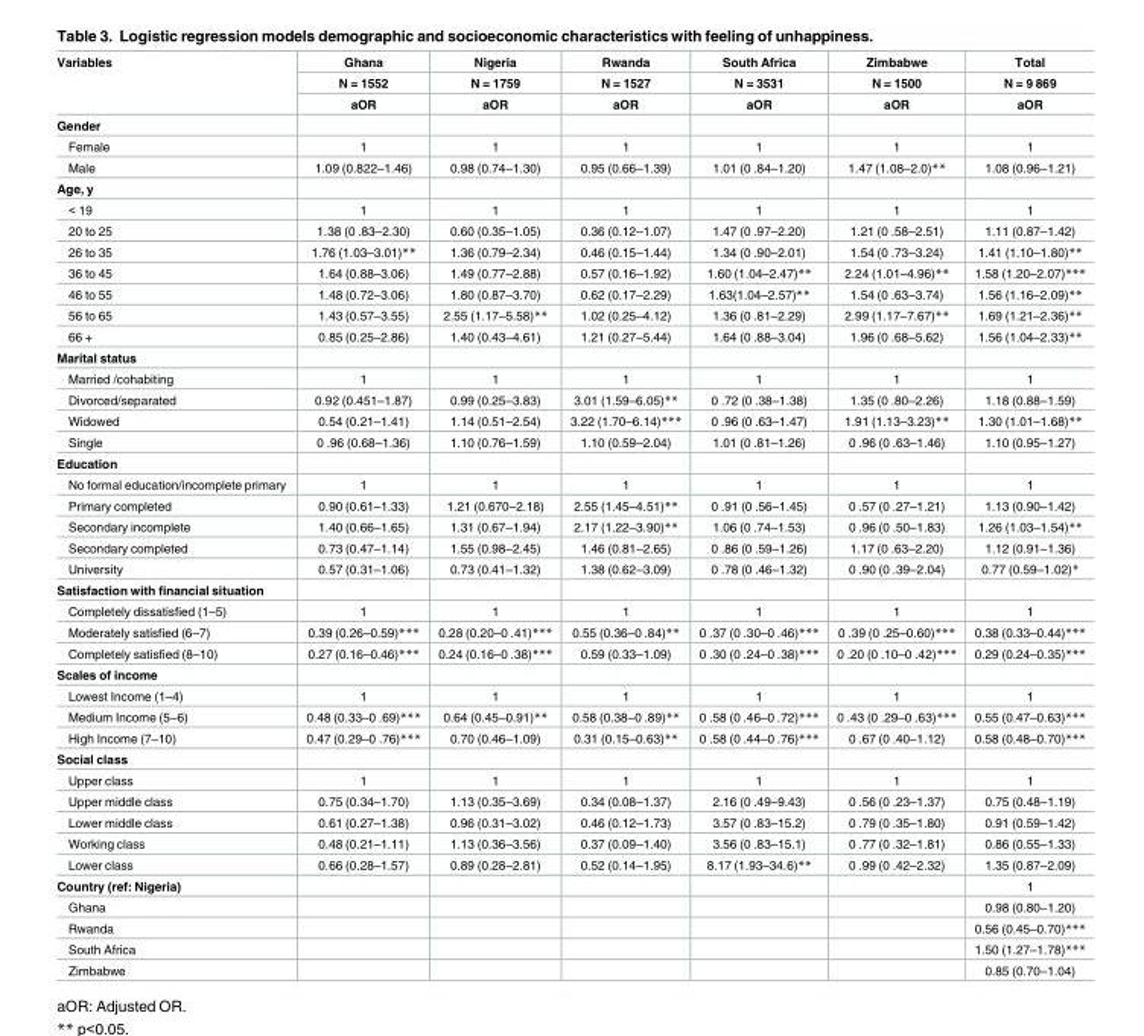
<table><thead><tr><td rowspan="3">Variables</td><td rowspan="3">Ghana N = 1552 aOR</td><td rowspan="3">Nigeria N = 1759 aOR</td><td rowspan="3">Rwanda N = 1527 aOR</td><td rowspan="3">South Africa N = 3531 aOR</td><td rowspan="3">Zimbabwe N = 1500 aOR</td><td rowspan="3">Total N = 9 869 aOR</td></tr><tr></tr><tr></tr></thead><tbody><tr><td colspan="7">Gender</td></tr><tr><td>Female</td><td>1</td><td>1</td><td>1</td><td>1</td><td>1</td><td>1</td></tr><tr><td>Male</td><td>1.09 (0.822–1.46)</td><td>0.98 (0.74–1.30)</td><td>0.95 (0.66–1.39)</td><td>1.01 (0 .84–1.20)</td><td>1.47 (1.08–2.0)**</td><td>1.08 (0.96–1.21)</td></tr><tr><td colspan="7">Age, y</td></tr><tr><td>&lt; 19</td><td>1</td><td>1</td><td>1</td><td>1</td><td>1</td><td>1</td></tr><tr><td>20 to 25</td><td>1.38 (0 .83–2.30)</td><td>0.60 (0.35–1.05)</td><td>0.36 (0.12–1.07)</td><td>1.47 (0 .97–2.20)</td><td>1.21 (0 .58–2.51)</td><td>1.11 (0.87–1.42)</td></tr><tr><td>26 to 35</td><td>1.76 (1.03–3.01)**</td><td>1.36 (0.79–2.34)</td><td>0.46 (0.15–1.44)</td><td>1.34 (0 .90–2.01)</td><td>1.54 (0 .73–3.24)</td><td>1.41 (1.10–1.80)**</td></tr><tr><td>36 to 45</td><td>1.64 (0.88–3.06)</td><td>1.49 (0.77–2.88)</td><td>0.57 (0.16–1.92)</td><td>1.60 (1.04–2.47)**</td><td>2.24 (1.01–4.96)**</td><td>1.58 (1.20–2.07)***</td></tr><tr><td>46 to 55</td><td>1.48 (0.72–3.06)</td><td>1.80 (0.87–3.70)</td><td>0.62 (0.17–2.29)</td><td>1.63(1.04–2.57)**</td><td>1.54 (0 .63–3.74)</td><td>1.56 (1.16–2.09)**</td></tr><tr><td>56 to 65</td><td>1.43 (0.57–3.55)</td><td>2.55 (1.17–5.58)**</td><td>1.02 (0.25–4.12)</td><td>1.36 (0 .81–2.29)</td><td>2.99 (1.17–7.67)**</td><td>1.69 (1.21–2.36)**</td></tr><tr><td>66 +</td><td>0.85 (0.25–2.86)</td><td>1.40 (0.43–4.61)</td><td>1.21 (0.27–5.44)</td><td>1.64 (0 .88–3.04)</td><td>1.96 (0 .68–5.62)</td><td>1.56 (1.04–2.33)**</td></tr><tr><td colspan="7">Marital status</td></tr><tr><td>Married /cohabiting</td><td>1</td><td>1</td><td>1</td><td>1</td><td>1</td><td>1</td></tr><tr><td>Divorced/separated</td><td>0.92 (0.451–1.87)</td><td>0.99 (0.25–3.83)</td><td>3.01 (1.59–6.05)**</td><td>0 .72 (0 .38–1.38)</td><td>1.35 (0 .80–2.26)</td><td>1.18 (0.88–1.59)</td></tr><tr><td>Widowed</td><td>0.54 (0.21–1.41)</td><td>1.14 (0.51–2.54)</td><td>3.22 (1.70–6.14)***</td><td>0 .96 (0 .63–1.47)</td><td>1.91 (1.13–3.23)**</td><td>1.30 (1.01–1.68)**</td></tr><tr><td>Single</td><td>0 .96 (0.68–1.36)</td><td>1.10 (0.76–1.59)</td><td>1.10 (0.59–2.04)</td><td>1.01 (0 .81–1.26)</td><td>0 .96 (0 .63–1.46)</td><td>1.10 (0.95–1.27)</td></tr><tr><td colspan="7">Education</td></tr><tr><td>No formal education/incomplete primary</td><td>1</td><td>1</td><td>1</td><td>1</td><td>1</td><td>1</td></tr><tr><td>Primary completed</td><td>0.90 (0.61–1.33)</td><td>1.21 (0.670–2.18)</td><td>2.55 (1.45–4.51)**</td><td>0 .91 (0 .56–1.45)</td><td>0 .57 (0 .27–1.21)</td><td>1.13 (0.90–1.42)</td></tr><tr><td>Secondary incomplete</td><td>1.40 (0.66–1.65)</td><td>1.31 (0.67–1.94)</td><td>2.17 (1.22–3.90)**</td><td>1.06 (0 .74–1.53)</td><td>0 .96 (0 .50–1.83)</td><td>1.26 (1.03–1.54)**</td></tr><tr><td>Secondary completed</td><td>0.73 (0.47–1.14)</td><td>1.55 (0.98–2.45)</td><td>1.46 (0.81–2.65)</td><td>0 .86 (0 .59–1.26)</td><td>1.17 (0 .63–2.20)</td><td>1.12 (0.91–1.36)</td></tr><tr><td>University</td><td>0.57 (0.31–1.06)</td><td>0.73 (0.41–1.32)</td><td>1.38 (0.62–3.09)</td><td>0 .78 (0 .46–1.32)</td><td>0 .90 (0 .39–2.04)</td><td>0.77 (0.59–1.02)*</td></tr><tr><td colspan="7">Satisfaction with financial situation</td></tr><tr><td>Completely dissatisfied (1–5)</td><td>1</td><td>1</td><td>1</td><td>1</td><td>1</td><td>1</td></tr><tr><td>Moderately satisfied (6–7)</td><td>0.39 (0.26–0.59)***</td><td>0.28 (0.20–0 .41)***</td><td>0.55 (0.36–0 .84)**</td><td>0 .37 (0 .30–0 .46)***</td><td>0 .39 (0 .25–0.60)***</td><td>0.38 (0.33–0.44)***</td></tr><tr><td>Completely satisfied (8–10)</td><td>0.27 (0.16–0.46)***</td><td>0.24 (0.16–0 .38)***</td><td>0.59 (0.33–1.09)</td><td>0 .30 (0 .24–0 .38)***</td><td>0 .20 (0 .10–0 .42)***</td><td>0.29 (0.24–0.35)***</td></tr><tr><td colspan="7">Scales of income</td></tr><tr><td>Lowest Income (1–4)</td><td>1</td><td>1</td><td>1</td><td>1</td><td>1</td><td>1</td></tr><tr><td>Medium Income (5–6)</td><td>0.48 (0.33–0 .69)***</td><td>0.64 (0.45–0.91)**</td><td>0.58 (0.38–0 .89)**</td><td>0 .58 (0 .46–0 .72)***</td><td>0 .43 (0 .29–0 .63)***</td><td>0.55 (0.47–0.63)***</td></tr><tr><td>High Income (7–10)</td><td>0.47 (0.29–0 .76)***</td><td>0.70 (0.46–1.09)</td><td>0.31 (0.15–0.63)**</td><td>0 .58 (0 .44–0 .76)***</td><td>0 .67 (0 .40–1.12)</td><td>0.58 (0.48–0.70)***</td></tr><tr><td colspan="7">Social class</td></tr><tr><td>Upper class</td><td>1</td><td>1</td><td>1</td><td>1</td><td>1</td><td>1</td></tr><tr><td>Upper middle class</td><td>0.75 (0.34–1.70)</td><td>1.13 (0.35–3.69)</td><td>0.34 (0.08–1.37)</td><td>2.16 (0 .49–9.43)</td><td>0 .56 (0 .23–1.37)</td><td>0.75 (0.48–1.19)</td></tr><tr><td>Lower middle class</td><td>0.61 (0.27–1.38)</td><td>0.96 (0.31–3.02)</td><td>0.46 (0.12–1.73)</td><td>3.57 (0 .83–15.2)</td><td>0 .79 (0 .35–1.80)</td><td>0.91 (0.59–1.42)</td></tr><tr><td>Working class</td><td>0.48 (0.21–1.11)</td><td>1.13 (0.36–3.56)</td><td>0.37 (0.09–1.40)</td><td>3.56 (0 .83–15.1)</td><td>0 .77 (0 .32–1.81)</td><td>0.86 (0.55–1.33)</td></tr><tr><td>Lower class</td><td>0.66 (0.28–1.57)</td><td>0.89 (0.28–2.81)</td><td>0.52 (0.14–1.95)</td><td>8.17 (1.93–34.6)**</td><td>0 .99 (0 .42–2.32)</td><td>1.35 (0.87–2.09)</td></tr><tr><td>Country (ref: Nigeria)</td><td></td><td></td><td></td><td></td><td></td><td>1</td></tr><tr><td>Ghana</td><td></td><td></td><td></td><td></td><td></td><td>0.98 (0.80–1.20)</td></tr><tr><td>Rwanda</td><td></td><td></td><td></td><td></td><td></td><td>0.56 (0.45–0.70)***</td></tr><tr><td>South Africa</td><td></td><td></td><td></td><td></td><td></td><td>1.50 (1.27–1.78)***</td></tr><tr><td>Zimbabwe</td><td></td><td></td><td></td><td></td><td></td><td>0.85 (0.70–1.04)</td></tr></tbody></table>